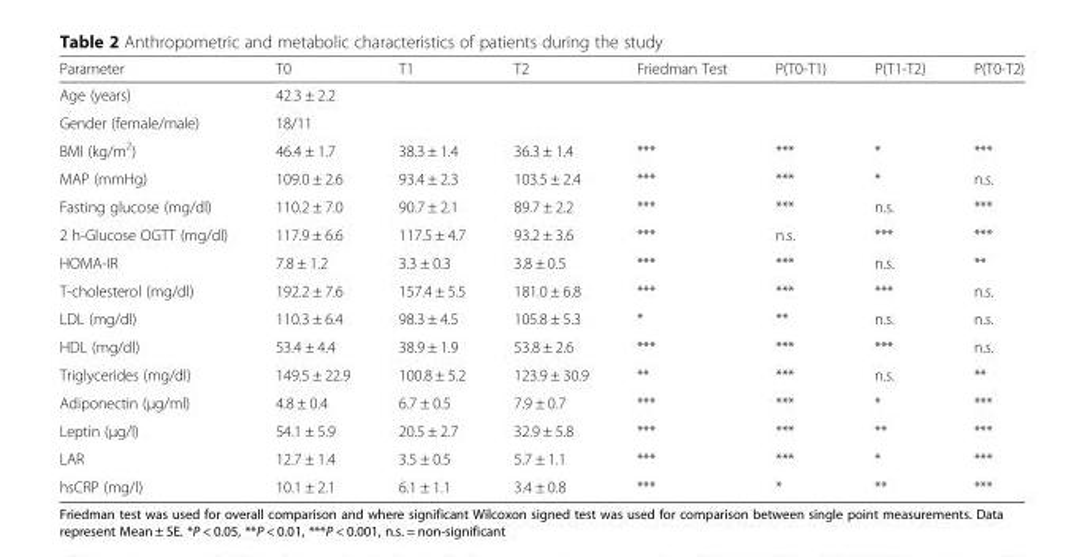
<table><thead><tr><td>Parameter</td><td>T0</td><td>T1</td><td>T2</td><td>Friedman Test</td><td>P(T0-T1)</td><td>P(T1-T2)</td><td>P(T0-T2)</td></tr></thead><tbody><tr><td>Age (years)</td><td>42.3 ± 2.2</td><td></td><td></td><td></td><td></td><td></td><td></td></tr><tr><td>Gender (female/male)</td><td>18/11</td><td></td><td></td><td></td><td></td><td></td><td></td></tr><tr><td>BMI (kg/m<sup>2</sup>)</td><td>46.4 ± 1.7</td><td>38.3 ± 1.4</td><td>36.3 ± 1.4</td><td>***</td><td>***</td><td>*</td><td>***</td></tr><tr><td>MAP (mmHg)</td><td>109.0 ± 2.6</td><td>93.4 ± 2.3</td><td>103.5 ± 2.4</td><td>***</td><td>***</td><td>*</td><td>n.s.</td></tr><tr><td>Fasting glucose (mg/dl)</td><td>110.2 ± 7.0</td><td>90.7 ± 2.1</td><td>89.7 ± 2.2</td><td>***</td><td>***</td><td>n.s.</td><td>***</td></tr><tr><td>2 h-Glucose OGTT (mg/dl)</td><td>117.9 ± 6.6</td><td>117.5 ± 4.7</td><td>93.2 ± 3.6</td><td>***</td><td>n.s.</td><td>***</td><td>***</td></tr><tr><td>HOMA-IR</td><td>7.8 ± 1.2</td><td>3.3 ± 0.3</td><td>3.8 ± 0.5</td><td>***</td><td>***</td><td>n.s.</td><td>**</td></tr><tr><td>T-cholesterol (mg/dl)</td><td>192.2 ± 7.6</td><td>157.4 ± 5.5</td><td>181.0 ± 6.8</td><td>***</td><td>***</td><td>***</td><td>n.s.</td></tr><tr><td>LDL (mg/dl)</td><td>110.3 ± 6.4</td><td>98.3 ± 4.5</td><td>105.8 ± 5.3</td><td>*</td><td>**</td><td>n.s.</td><td>n.s.</td></tr><tr><td>HDL (mg/dl)</td><td>53.4 ± 4.4</td><td>38.9 ± 1.9</td><td>53.8 ± 2.6</td><td>***</td><td>***</td><td>***</td><td>n.s.</td></tr><tr><td>Triglycerides (mg/dl)</td><td>149.5 ± 22.9</td><td>100.8 ± 5.2</td><td>123.9 ± 30.9</td><td>**</td><td>***</td><td>n.s.</td><td>**</td></tr><tr><td>Adiponectin (μg/ml)</td><td>4.8 ± 0.4</td><td>6.7 ± 0.5</td><td>7.9 ± 0.7</td><td>***</td><td>***</td><td>*</td><td>***</td></tr><tr><td>Leptin (μg/l)</td><td>54.1 ± 5.9</td><td>20.5 ± 2.7</td><td>32.9 ± 5.8</td><td>***</td><td>***</td><td>**</td><td>***</td></tr><tr><td>LAR</td><td>12.7 ± 1.4</td><td>3.5 ± 0.5</td><td>5.7 ± 1.1</td><td>***</td><td>***</td><td>*</td><td>***</td></tr><tr><td>hsCRP (mg/l)</td><td>10.1 ± 2.1</td><td>6.1 ± 1.1</td><td>3.4 ± 0.8</td><td>***</td><td>*</td><td>**</td><td>***</td></tr></tbody></table>